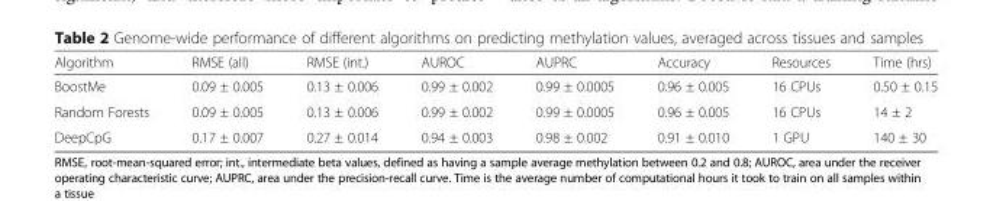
<table><thead><tr><td>Algorithm</td><td>RMSE (all)</td><td>RMSE (int.)</td><td>AUROC</td><td>AUPRC</td><td>Accuracy</td><td>Resources</td><td>Time (hrs)</td></tr></thead><tbody><tr><td>BoostMe</td><td>0.09 ± 0.005</td><td>0.13 ± 0.006</td><td>0.99 ± 0.002</td><td>0.99 ± 0.0005</td><td>0.96 ± 0.005</td><td>16 CPUs</td><td>0.50 ± 0.15</td></tr><tr><td>Random Forests</td><td>0.09 ± 0.005</td><td>0.13 ± 0.006</td><td>0.99 ± 0.002</td><td>0.99 ± 0.0005</td><td>0.96 ± 0.005</td><td>16 CPUs</td><td>14 ± 2</td></tr><tr><td>DeepCpG</td><td>0.17 ± 0.007</td><td>0.27 ± 0.014</td><td>0.94 ± 0.003</td><td>0.98 ± 0.002</td><td>0.91 ± 0.010</td><td>1 GPU</td><td>140 ± 30</td></tr></tbody></table>